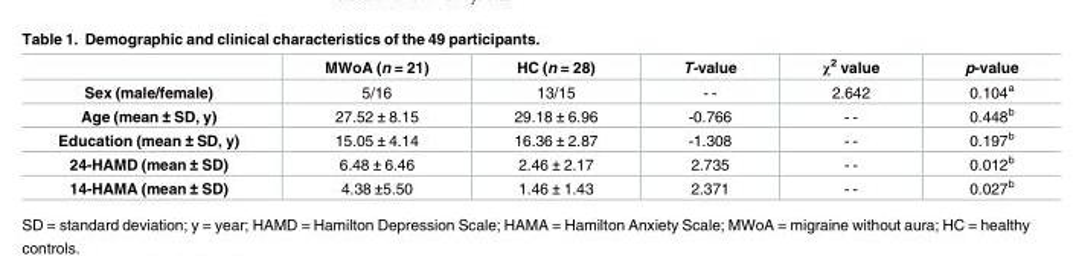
<table><thead><tr><td></td><td>MWoA (n = 21)</td><td>HC (n = 28)</td><td>T-value</td><td>χ<sup>2</sup> value</td><td>p-value</td></tr></thead><tbody><tr><td>Sex (male/female)</td><td>5/16</td><td>13/15</td><td>- -</td><td>2.642</td><td>0.104<sup>a</sup></td></tr><tr><td>Age (mean ± SD, y)</td><td>27.52 ± 8.15</td><td>29.18 ± 6.96</td><td>-0.766</td><td>- -</td><td>0.448<sup>b</sup></td></tr><tr><td>Education (mean ± SD, y)</td><td>15.05 ± 4.14</td><td>16.36 ± 2.87</td><td>-1.308</td><td>- -</td><td>0.197<sup>b</sup></td></tr><tr><td>24-HAMD (mean ± SD)</td><td>6.48 ± 6.46</td><td>2.46 ± 2.17</td><td>2.735</td><td>- -</td><td>0.012<sup>b</sup></td></tr><tr><td>14-HAMA (mean ± SD)</td><td>4.38 ±5.50</td><td>1.46 ± 1.43</td><td>2.371</td><td>- -</td><td>0.027<sup>b</sup></td></tr></tbody></table>